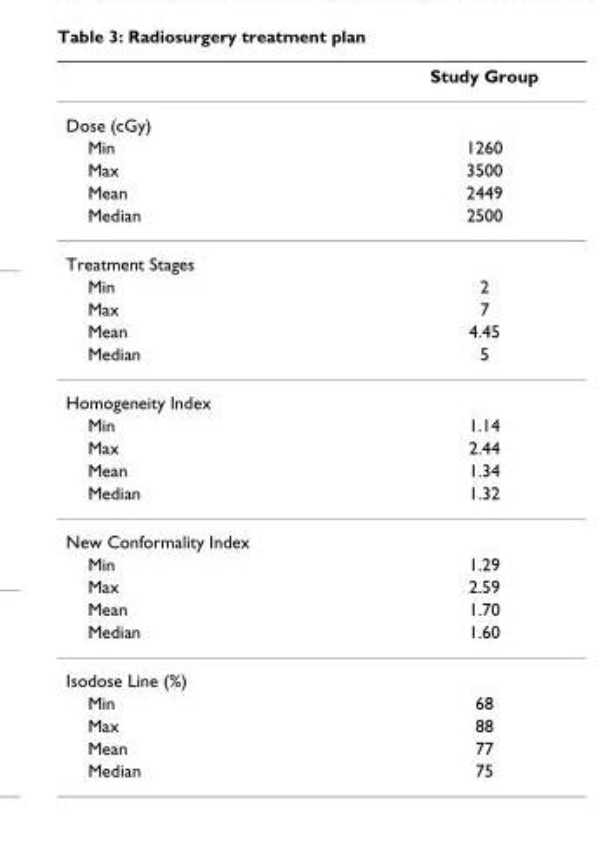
<table><thead><tr><td></td><td>Study Group</td></tr></thead><tbody><tr><td colspan="2">Dose (cGy)</td></tr><tr><td>Min</td><td>1260</td></tr><tr><td>Max</td><td>3500</td></tr><tr><td>Mean</td><td>2449</td></tr><tr><td>Median</td><td>2500</td></tr><tr><td colspan="2">Treatment Stages</td></tr><tr><td>Min</td><td>2</td></tr><tr><td>Max</td><td>7</td></tr><tr><td>Mean</td><td>4.45</td></tr><tr><td>Median</td><td>5</td></tr><tr><td colspan="2">Homogeneity Index</td></tr><tr><td>Min</td><td>1.14</td></tr><tr><td>Max</td><td>2.44</td></tr><tr><td>Mean</td><td>1.34</td></tr><tr><td>Median</td><td>1.32</td></tr><tr><td colspan="2">New Conformality Index</td></tr><tr><td>Min</td><td>1.29</td></tr><tr><td>Max</td><td>2.59</td></tr><tr><td>Mean</td><td>1.70</td></tr><tr><td>Median</td><td>1.60</td></tr><tr><td colspan="2">Isodose Line (%)</td></tr><tr><td>Min</td><td>68</td></tr><tr><td>Max</td><td>88</td></tr><tr><td>Mean</td><td>77</td></tr><tr><td>Median</td><td>75</td></tr></tbody></table>